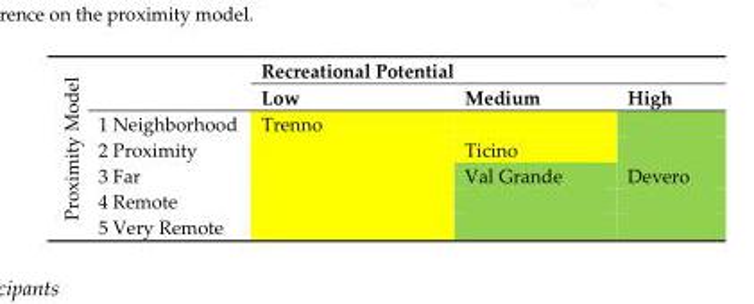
<table><tbody><tr><td rowspan="7">Proximity Model</td><td rowspan="2"></td><td colspan="3">Recreational Potential</td></tr><tr><td>Low</td><td>Medium</td><td>High</td></tr><tr><td>1 Neighborhood</td><td>Trenno</td><td></td><td></td></tr><tr><td>2 Proximity</td><td></td><td>Ticino</td><td></td></tr><tr><td>3 Far</td><td></td><td>Val Grande</td><td>Devero</td></tr><tr><td>4 Remote</td><td></td><td></td><td></td></tr><tr><td>5 Very Remote</td><td></td><td></td><td></td></tr></tbody></table>